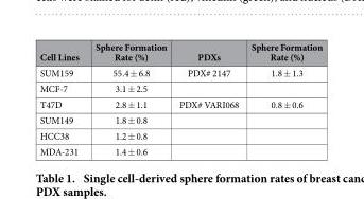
<table><thead><tr><td>Cell Lines</td><td>Sphere Formation Rate (%)</td><td>PDXs</td><td>Sphere Formation Rate (%)</td></tr></thead><tbody><tr><td>SUM159</td><td>55.4 ± 6.8</td><td>PDX# 2147</td><td>1.8 ± 1.3</td></tr><tr><td>MCF-7</td><td>3.1 ± 2.5</td><td></td><td></td></tr><tr><td>T47D</td><td>2.8 ± 1.1</td><td>PDX# VARI068</td><td>0.8 ± 0.6</td></tr><tr><td>SUM149</td><td>1.8 ± 0.8</td><td></td><td></td></tr><tr><td>HCC38</td><td>1.2 ± 0.8</td><td></td><td></td></tr><tr><td>MDA-231</td><td>1.4 ± 0.6</td><td></td><td></td></tr></tbody></table>